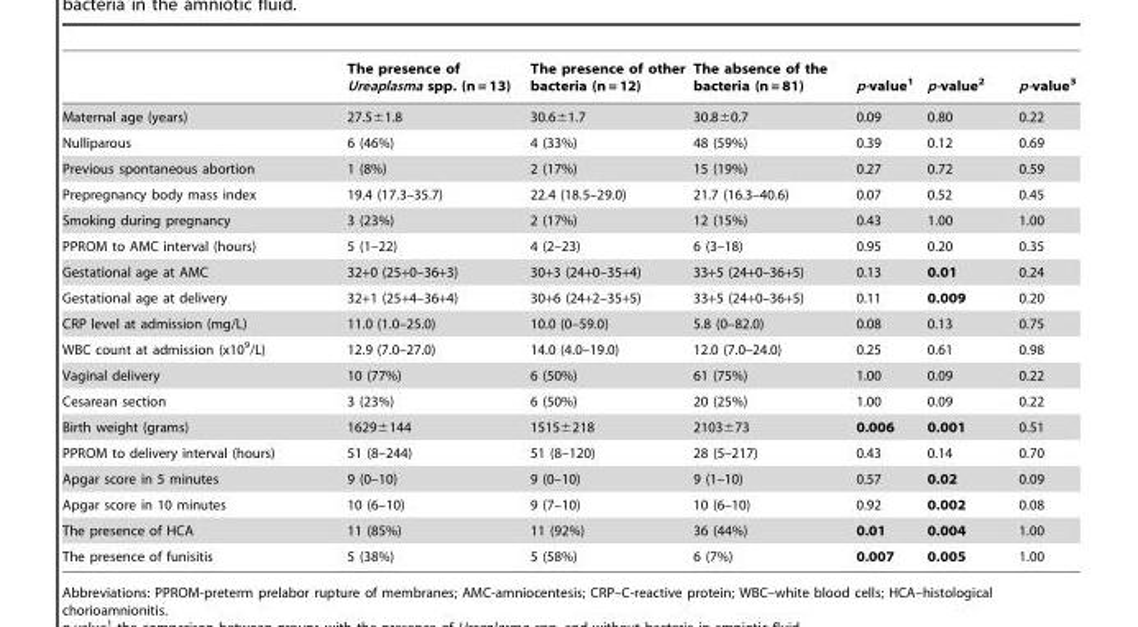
<table><thead><tr><td></td><td>The presence of Ureaplasma spp. (n = 13)</td><td>The presence of other bacteria (n = 12)</td><td>The absence of the bacteria (n = 81)</td><td>p-value<sup>1</sup></td><td>p-value<sup>2</sup></td><td>p-value<sup>3</sup></td></tr></thead><tbody><tr><td>Maternal age (years)</td><td>27.5±1.8</td><td>30.6±1.7</td><td>30.8±0.7</td><td>0.09</td><td>0.80</td><td>0.22</td></tr><tr><td>Nulliparous</td><td>6 (46%)</td><td>4 (33%)</td><td>48 (59%)</td><td>0.39</td><td>0.12</td><td>0.69</td></tr><tr><td>Previous spontaneous abortion</td><td>1 (8%)</td><td>2 (17%)</td><td>15 (19%)</td><td>0.27</td><td>0.72</td><td>0.59</td></tr><tr><td>Prepregnancy body mass index</td><td>19.4 (17.3–35.7)</td><td>22.4 (18.5–29.0)</td><td>21.7 (16.3–40.6)</td><td>0.07</td><td>0.52</td><td>0.45</td></tr><tr><td>Smoking during pregnancy</td><td>3 (23%)</td><td>2 (17%)</td><td>12 (15%)</td><td>0.43</td><td>1.00</td><td>1.00</td></tr><tr><td>PPROM to AMC interval (hours)</td><td>5 (1–22)</td><td>4 (2–23)</td><td>6 (3–18)</td><td>0.95</td><td>0.20</td><td>0.35</td></tr><tr><td>Gestational age at AMC</td><td>32+0 (25+0–36+3)</td><td>30+3 (24+0–35+4)</td><td>33+5 (24+0–36+5)</td><td>0.13</td><td>0.01</td><td>0.24</td></tr><tr><td>Gestational age at delivery</td><td>32+1 (25+4–36+4)</td><td>30+6 (24+2–35+5)</td><td>33+5 (24+0–36+5)</td><td>0.11</td><td>0.009</td><td>0.20</td></tr><tr><td>CRP level at admission (mg/L)</td><td>11.0 (1.0–25.0)</td><td>10.0 (0–59.0)</td><td>5.8 (0–82.0)</td><td>0.08</td><td>0.13</td><td>0.75</td></tr><tr><td>WBC count at admission (x10<sup>9</sup>/L)</td><td>12.9 (7.0–27.0)</td><td>14.0 (4.0–19.0)</td><td>12.0 (7.0–24.0)</td><td>0.25</td><td>0.61</td><td>0.98</td></tr><tr><td>Vaginal delivery</td><td>10 (77%)</td><td>6 (50%)</td><td>61 (75%)</td><td>1.00</td><td>0.09</td><td>0.22</td></tr><tr><td>Cesarean section</td><td>3 (23%)</td><td>6 (50%)</td><td>20 (25%)</td><td>1.00</td><td>0.09</td><td>0.22</td></tr><tr><td>Birth weight (grams)</td><td>1629±144</td><td>1515±218</td><td>2103±73</td><td>0.006</td><td>0.001</td><td>0.51</td></tr><tr><td>PPROM to delivery interval (hours)</td><td>51 (8–244)</td><td>51 (8–120)</td><td>28 (5–217)</td><td>0.43</td><td>0.14</td><td>0.70</td></tr><tr><td>Apgar score in 5 minutes</td><td>9 (0–10)</td><td>9 (0–10)</td><td>9 (1–10)</td><td>0.57</td><td>0.02</td><td>0.09</td></tr><tr><td>Apgar score in 10 minutes</td><td>10 (6–10)</td><td>9 (7–10)</td><td>10 (6–10)</td><td>0.92</td><td>0.002</td><td>0.08</td></tr><tr><td>The presence of HCA</td><td>11 (85%)</td><td>11 (92%)</td><td>36 (44%)</td><td>0.01</td><td>0.004</td><td>1.00</td></tr><tr><td>The presence of funisitis</td><td>5 (38%)</td><td>5 (58%)</td><td>6 (7%)</td><td>0.007</td><td>0.005</td><td>1.00</td></tr></tbody></table>